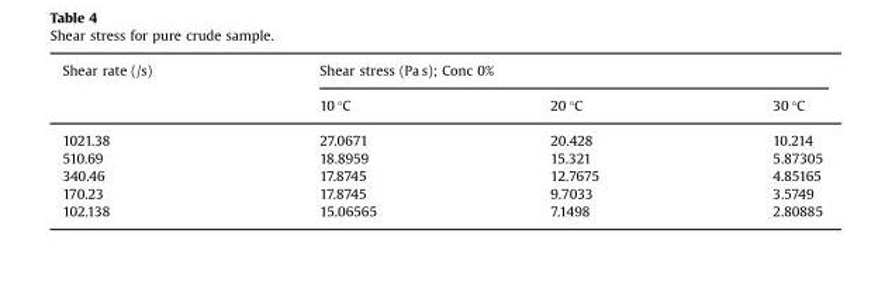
<table><thead><tr><td rowspan="2">Shear rate (/s)</td><td colspan="3">Shear stress (Pa s); Conc 0%</td></tr><tr><td>10 °C</td><td>20 °C</td><td>30 °C</td></tr></thead><tbody><tr><td>1021.38</td><td>27.0671</td><td>20.428</td><td>10.214</td></tr><tr><td>510.69</td><td>18.8959</td><td>15.321</td><td>5.87305</td></tr><tr><td>340.46</td><td>17.8745</td><td>12.7675</td><td>4.85165</td></tr><tr><td>170.23</td><td>17.8745</td><td>9.7033</td><td>3.5749</td></tr><tr><td>102.138</td><td>15.06565</td><td>7.1498</td><td>2.80885</td></tr></tbody></table>